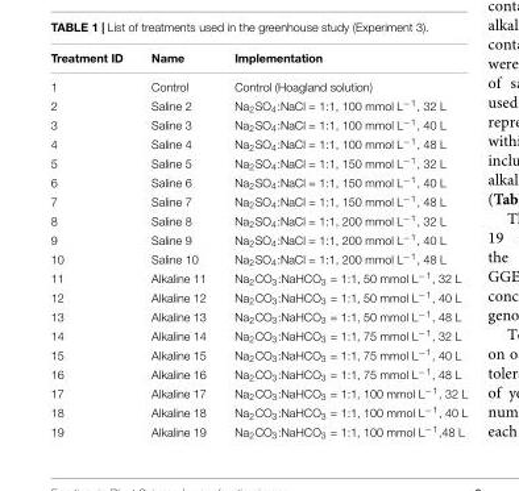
<table><thead><tr><td>Treatment ID</td><td>Name</td><td>Implementation</td></tr></thead><tbody><tr><td>1</td><td>Control</td><td>Control (Hoagland solution)</td></tr><tr><td>2</td><td>Saline 2</td><td>Na<sub>2</sub>SO<sub>4</sub>:NaCl = 1:1, 100 mmol L<sup>−1</sup>, 32 L</td></tr><tr><td>3</td><td>Saline 3</td><td>Na<sub>2</sub>SO<sub>4</sub>:NaCl = 1:1, 100 mmol L<sup>−1</sup>, 40 L</td></tr><tr><td>4</td><td>Saline 4</td><td>Na<sub>2</sub>SO<sub>4</sub>:NaCl = 1:1, 100 mmol L<sup>−1</sup>, 48 L</td></tr><tr><td>5</td><td>Saline 5</td><td>Na<sub>2</sub>SO<sub>4</sub>:NaCl = 1:1, 150 mmol L<sup>−1</sup>, 32 L</td></tr><tr><td>6</td><td>Saline 6</td><td>Na<sub>2</sub>SO<sub>4</sub>:NaCl = 1:1, 150 mmol L<sup>−1</sup>, 40 L</td></tr><tr><td>7</td><td>Saline 7</td><td>Na<sub>2</sub>SO<sub>4</sub>:NaCl = 1:1, 150 mmol L<sup>−1</sup>, 48 L</td></tr><tr><td>8</td><td>Saline 8</td><td>Na<sub>2</sub>SO<sub>4</sub>:NaCl = 1:1, 200 mmol L<sup>−1</sup>, 32 L</td></tr><tr><td>9</td><td>Saline 9</td><td>Na<sub>2</sub>SO<sub>4</sub>:NaCl = 1:1, 200 mmol L<sup>−1</sup>, 40 L</td></tr><tr><td>10</td><td>Saline 10</td><td>Na<sub>2</sub>SO<sub>4</sub>:NaCl = 1:1, 200 mmol L<sup>−1</sup>, 48 L</td></tr><tr><td>11</td><td>Alkaline 11</td><td>Na<sub>2</sub>CO<sub>3</sub>:NaHCO<sub>3</sub> = 1:1, 50 mmol L<sup>−1</sup>, 32 L</td></tr><tr><td>12</td><td>Alkaline 12</td><td>Na<sub>2</sub>CO<sub>3</sub>:NaHCO<sub>3</sub> = 1:1, 50 mmol L<sup>−1</sup>, 40 L</td></tr><tr><td>13</td><td>Alkaline 13</td><td>Na<sub>2</sub>CO<sub>3</sub>:NaHCO<sub>3</sub> = 1:1, 50 mmol L<sup>−1</sup>, 48 L</td></tr><tr><td>14</td><td>Alkaline 14</td><td>Na<sub>2</sub>CO<sub>3</sub>:NaHCO<sub>3</sub> = 1:1, 75 mmol L<sup>−1</sup>, 32 L</td></tr><tr><td>15</td><td>Alkaline 15</td><td>Na<sub>2</sub>CO<sub>3</sub>:NaHCO<sub>3</sub> = 1:1, 75 mmol L<sup>−1</sup>, 40 L</td></tr><tr><td>16</td><td>Alkaline 16</td><td>Na<sub>2</sub>CO<sub>3</sub>:NaHCO<sub>3</sub> = 1:1, 75 mmol L<sup>−1</sup>, 48 L</td></tr><tr><td>17</td><td>Alkaline 17</td><td>Na<sub>2</sub>CO<sub>3</sub>:NaHCO<sub>3</sub> = 1:1, 100 mmol L<sup>−1</sup>, 32 L</td></tr><tr><td>18</td><td>Alkaline 18</td><td>Na<sub>2</sub>CO<sub>3</sub>:NaHCO<sub>3</sub> = 1:1, 100 mmol L<sup>−1</sup>, 40 L</td></tr><tr><td>19</td><td>Alkaline 19</td><td>Na<sub>2</sub>CO<sub>3</sub>:NaHCO<sub>3</sub> = 1:1, 100 mmol L<sup>−1</sup>,48 L</td></tr></tbody></table>